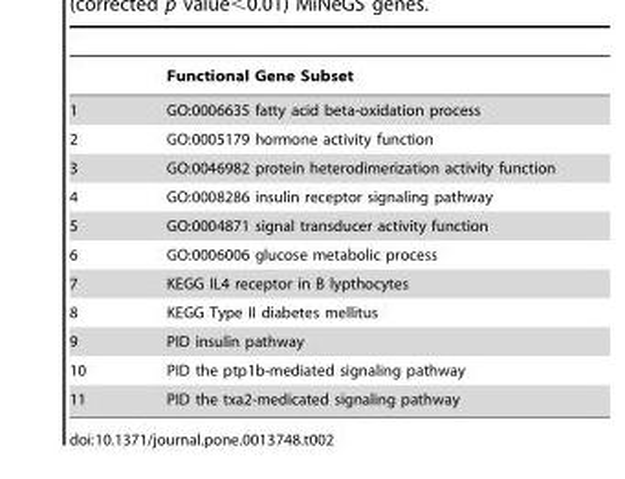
<table><thead><tr><td></td><td>Functional Gene Subset</td></tr></thead><tbody><tr><td>1</td><td>GO:0006635 fatty acid beta-oxidation process</td></tr><tr><td>2</td><td>GO:0005179 hormone activity function</td></tr><tr><td>3</td><td>GO:0046982 protein heterodimerization activity function</td></tr><tr><td>4</td><td>GO:0008286 insulin receptor signaling pathway</td></tr><tr><td>5</td><td>GO:0004871 signal transducer activity function</td></tr><tr><td>6</td><td>GO:0006006 glucose metabolic process</td></tr><tr><td>7</td><td>KEGG IL4 receptor in B lypthocytes</td></tr><tr><td>8</td><td>KEGG Type II diabetes mellitus</td></tr><tr><td>9</td><td>PID insulin pathway</td></tr><tr><td>10</td><td>PID the ptp1b-mediated signaling pathway</td></tr><tr><td>11</td><td>PID the txa2-medicated signaling pathway</td></tr></tbody></table>